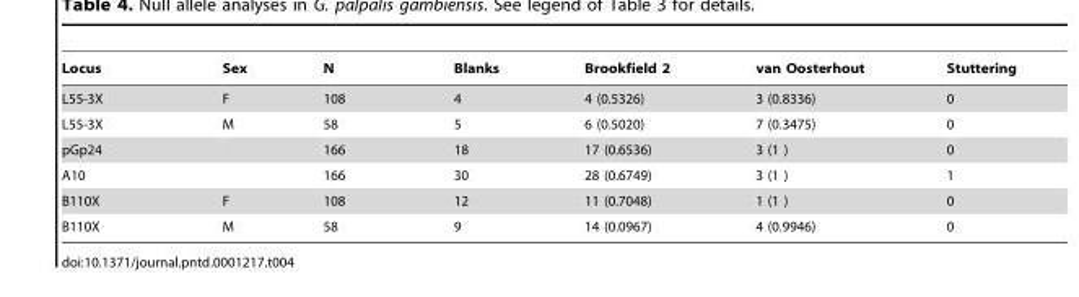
<table><thead><tr><td>Locus</td><td>Sex</td><td>N</td><td>Blanks</td><td>Brookfield 2</td><td>van Oosterhout</td><td>Stuttering</td></tr></thead><tbody><tr><td>L55-3X</td><td>F</td><td>108</td><td>4</td><td>4 (0.5326)</td><td>3 (0.8336)</td><td>0</td></tr><tr><td>L55-3X</td><td>M</td><td>58</td><td>5</td><td>6 (0.5020)</td><td>7 (0.3475)</td><td>0</td></tr><tr><td>pGp24</td><td></td><td>166</td><td>18</td><td>17 (0.6536)</td><td>3 (1 )</td><td>0</td></tr><tr><td>A10</td><td></td><td>166</td><td>30</td><td>28 (0.6749)</td><td>3 (1 )</td><td>1</td></tr><tr><td>B110X</td><td>F</td><td>108</td><td>12</td><td>11 (0.7048)</td><td>1 (1 )</td><td>0</td></tr><tr><td>B110X</td><td>M</td><td>58</td><td>9</td><td>14 (0.0967)</td><td>4 (0.9946)</td><td>0</td></tr></tbody></table>